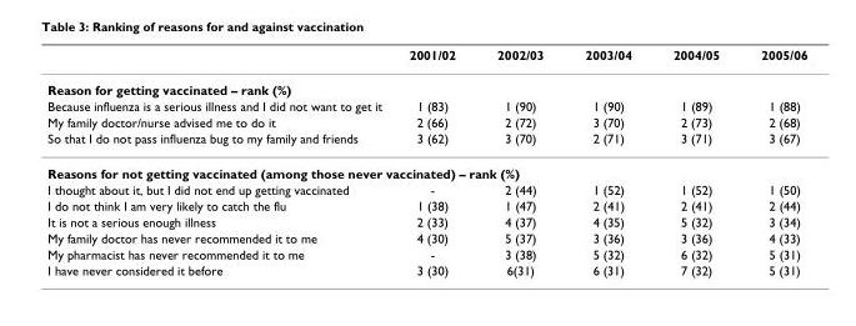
<table><thead><tr><td></td><td>2001/02</td><td>2002/03</td><td>2003/04</td><td>2004/05</td><td>2005/06</td></tr></thead><tbody><tr><td colspan="6">Reason for getting vaccinated – rank (%)</td></tr><tr><td>Because influenza is a serious illness and I did not want to get it</td><td>1 (83)</td><td>1 (90)</td><td>1 (90)</td><td>1 (89)</td><td>1 (88)</td></tr><tr><td>My family doctor/nurse advised me to do it</td><td>2 (66)</td><td>2 (72)</td><td>3 (70)</td><td>2 (73)</td><td>2 (68)</td></tr><tr><td>So that I do not pass influenza bug to my family and friends</td><td>3 (62)</td><td>3 (70)</td><td>2 (71)</td><td>3 (71)</td><td>3 (67)</td></tr><tr><td colspan="6">Reasons for not getting vaccinated (among those never vaccinated) – rank (%)</td></tr><tr><td>I thought about it, but I did not end up getting vaccinated</td><td>-</td><td>2 (44)</td><td>1 (52)</td><td>1 (52)</td><td>1 (50)</td></tr><tr><td>I do not think I am very likely to catch the flu</td><td>1 (38)</td><td>1 (47)</td><td>2 (41)</td><td>2 (41)</td><td>2 (44)</td></tr><tr><td>It is not a serious enough illness</td><td>2 (33)</td><td>4 (37)</td><td>4 (35)</td><td>5 (32)</td><td>3 (34)</td></tr><tr><td>My family doctor has never recommended it to me</td><td>4 (30)</td><td>5 (37)</td><td>3 (36)</td><td>3 (36)</td><td>4 (33)</td></tr><tr><td>My pharmacist has never recommended it to me</td><td>-</td><td>3 (38)</td><td>5 (32)</td><td>6 (32)</td><td>5 (31)</td></tr><tr><td>I have never considered it before</td><td>3 (30)</td><td>6(31)</td><td>6 (31)</td><td>7 (32)</td><td>5 (31)</td></tr></tbody></table>